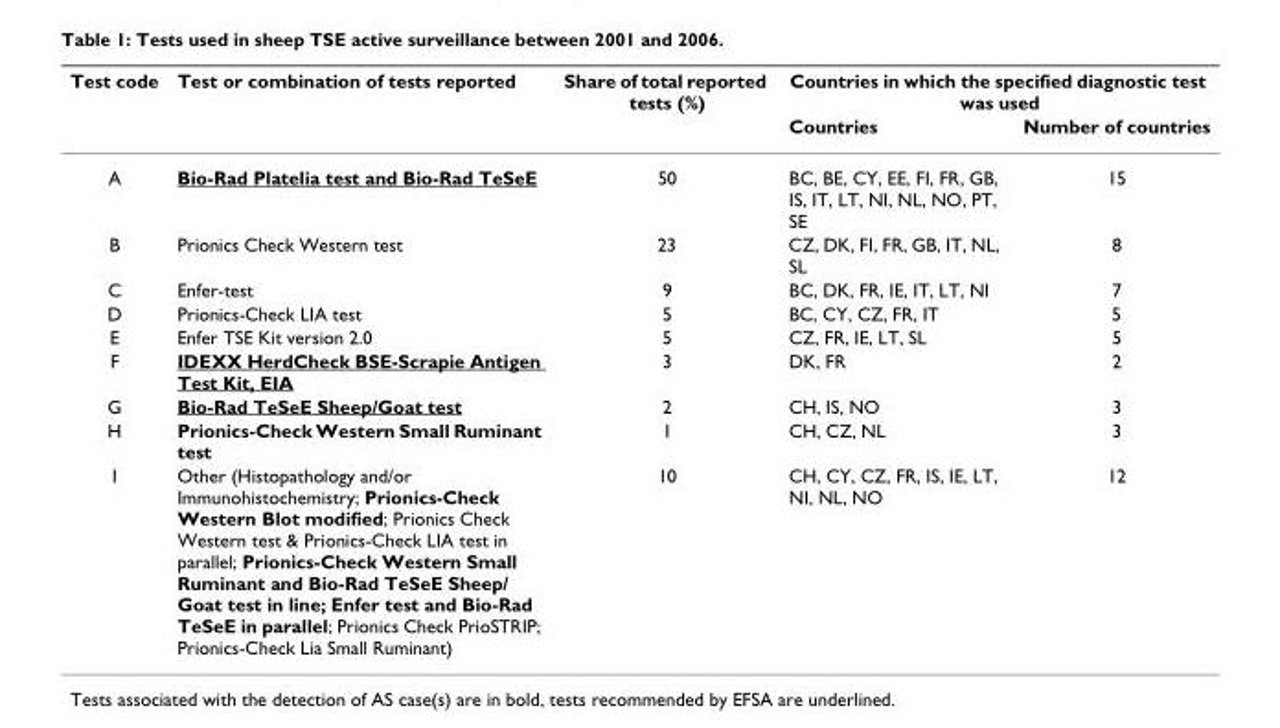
<table><thead><tr><td rowspan="2">Test code</td><td rowspan="2">Test or combination of tests reported</td><td rowspan="2">Share of total reported tests (%)</td><td colspan="2">Countries in which the specified diagnostic test was used</td></tr><tr><td>Countries</td><td>Number of countries</td></tr></thead><tbody><tr><td>A</td><td>Bio-Rad Platelia test and Bio-Rad TeSeE</td><td>50</td><td>BC, BE, CY, EE, FI, FR, GB, IS, IT, LT, NI, NL, NO, PT, SE</td><td>15</td></tr><tr><td>B</td><td>Prionics Check Western test</td><td>23</td><td>CZ, DK, FI, FR, GB, IT, NL, SL</td><td>8</td></tr><tr><td>C</td><td>Enfer-test</td><td>9</td><td>BC, DK, FR, IE, IT, LT, NI</td><td>7</td></tr><tr><td>D</td><td>Prionics-Check LIA test</td><td>5</td><td>BC, CY, CZ, FR, IT</td><td>5</td></tr><tr><td>E</td><td>Enfer TSE Kit version 2.0</td><td>5</td><td>CZ, FR, IE, LT, SL</td><td>5</td></tr><tr><td>F</td><td>IDEXX HerdCheck BSE-Scrapie Antigen Test Kit, EIA</td><td>3</td><td>DK, FR</td><td>2</td></tr><tr><td>G</td><td>Bio-Rad TeSeE Sheep/Goat test</td><td>2</td><td>CH, IS, NO</td><td>3</td></tr><tr><td>H</td><td>Prionics-Check Western Small Ruminant test</td><td>1</td><td>CH, CZ, NL</td><td>3</td></tr><tr><td>I</td><td>Other (Histopathology and/or Immunohistochemistry; Prionics-Check Western Blot modified; Prionics Check Western test &amp; Prionics-Check LIA test in parallel; Prionics-Check Western Small Ruminant and Bio-Rad TeSeE Sheep/ Goat test in line; Enfer test and Bio-Rad TeSeE in parallel; Prionics Check PrioSTRIP; Prionics-Check Lia Small Ruminant)</td><td>10</td><td>CH, CY, CZ, FR, IS, IE, LT, NI, NL, NO</td><td>12</td></tr></tbody></table>